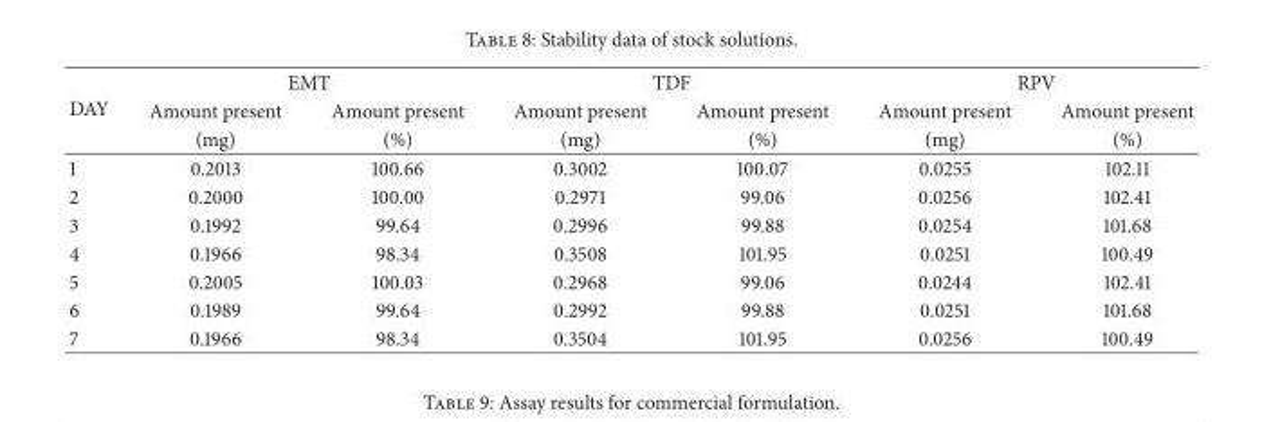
<table><thead><tr><td rowspan="2">DAY</td><td colspan="2">EMT</td><td colspan="2">TDF</td><td colspan="2">RPV</td></tr><tr><td>Amount present (mg)</td><td>Amount present (%)</td><td>Amount present (mg)</td><td>Amount present (%)</td><td>Amount present (mg)</td><td>Amount present (%)</td></tr></thead><tbody><tr><td>1</td><td>0.2013</td><td>100.66</td><td>0.3002</td><td>100.07</td><td>0.0255</td><td>102.11</td></tr><tr><td>2</td><td>0.2000</td><td>100.00</td><td>0.2971</td><td>99.06</td><td>0.0256</td><td>102.41</td></tr><tr><td>3</td><td>0.1992</td><td>99.64</td><td>0.2996</td><td>99.88</td><td>0.0254</td><td>101.68</td></tr><tr><td>4</td><td>0.1966</td><td>98.34</td><td>0.3508</td><td>101.95</td><td>0.0251</td><td>100.49</td></tr><tr><td>5</td><td>0.2005</td><td>100.03</td><td>0.2968</td><td>99.06</td><td>0.0244</td><td>102.41</td></tr><tr><td>6</td><td>0.1989</td><td>99.64</td><td>0.2992</td><td>99.88</td><td>0.0251</td><td>101.68</td></tr><tr><td>7</td><td>0.1966</td><td>98.34</td><td>0.3504</td><td>101.95</td><td>0.0256</td><td>100.49</td></tr></tbody></table>